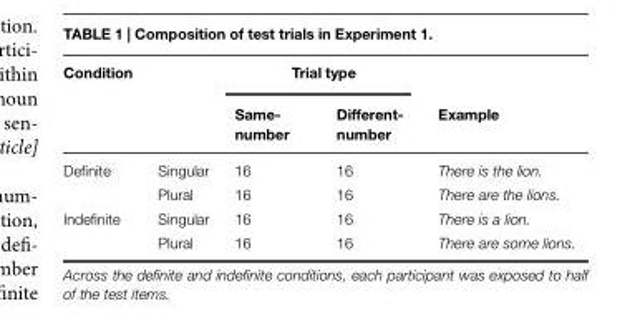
<table><thead><tr><td rowspan="2">Condition</td><td rowspan="2"></td><td colspan="2">Trial type</td><td rowspan="2">Example</td></tr><tr><td>Same- number</td><td>Different- number</td></tr></thead><tbody><tr><td rowspan="2">Definite</td><td>Singular</td><td>16</td><td>16</td><td>There is the lion.</td></tr><tr><td>Plural</td><td>16</td><td>16</td><td>There are the lions.</td></tr><tr><td rowspan="2">Indefinite</td><td>Singular</td><td>16</td><td>16</td><td>There is a lion.</td></tr><tr><td>Plural</td><td>16</td><td>16</td><td>There are some lions.</td></tr></tbody></table>